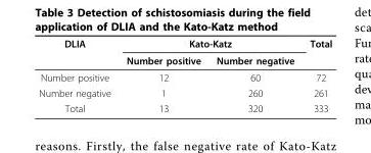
<table><thead><tr><td rowspan="2">DLIA</td><td colspan="2">Kato-Katz</td><td rowspan="2">Total</td></tr><tr><td>Number positive</td><td>Number negative</td></tr></thead><tbody><tr><td>Number positive</td><td>12</td><td>60</td><td>72</td></tr><tr><td>Number negative</td><td>1</td><td>260</td><td>261</td></tr><tr><td>Total</td><td>13</td><td>320</td><td>333</td></tr></tbody></table>